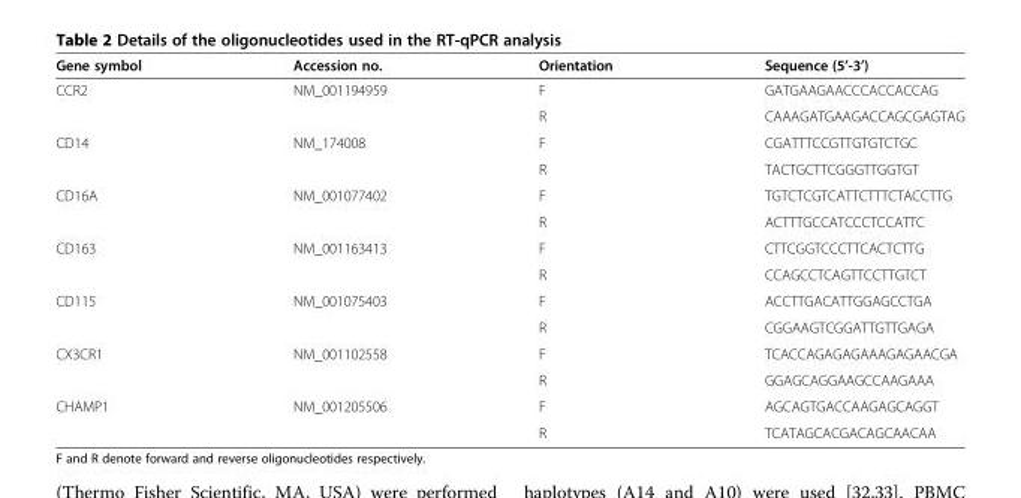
<table><thead><tr><td>Gene symbol</td><td>Accession no.</td><td>Orientation</td><td>Sequence (5’-3’)</td></tr></thead><tbody><tr><td rowspan="2">CCR2</td><td>NM_001194959</td><td>F</td><td>GATGAAGAACCCACCACCAG</td></tr><tr><td></td><td>R</td><td>CAAAGATGAAGACCAGCGAGTAG</td></tr><tr><td rowspan="2">CD14</td><td>NM_174008</td><td>F</td><td>CGATTTCCGTTGTGTCTGC</td></tr><tr><td></td><td>R</td><td>TACTGCTTCGGGTTGGTGT</td></tr><tr><td rowspan="2">CD16A</td><td>NM_001077402</td><td>F</td><td>TGTCTCGTCATTCTTTCTACCTTG</td></tr><tr><td></td><td>R</td><td>ACTTTGCCATCCCTCCATTC</td></tr><tr><td rowspan="2">CD163</td><td>NM_001163413</td><td>F</td><td>CTTCGGTCCCTTCACTCTTG</td></tr><tr><td></td><td>R</td><td>CCAGCCTCAGTTCCTTGTCT</td></tr><tr><td rowspan="2">CD115</td><td>NM_001075403</td><td>F</td><td>ACCTTGACATTGGAGCCTGA</td></tr><tr><td></td><td>R</td><td>CGGAAGTCGGATTGTTGAGA</td></tr><tr><td rowspan="2">CX3CR1</td><td>NM_001102558</td><td>F</td><td>TCACCAGAGAGAAAGAGAACGA</td></tr><tr><td></td><td>R</td><td>GGAGCAGGAAGCCAAGAAA</td></tr><tr><td rowspan="2">CHAMP1</td><td>NM_001205506</td><td>F</td><td>AGCAGTGACCAAGAGCAGGT</td></tr><tr><td></td><td>R</td><td>TCATAGCACGACAGCAACAA</td></tr></tbody></table>